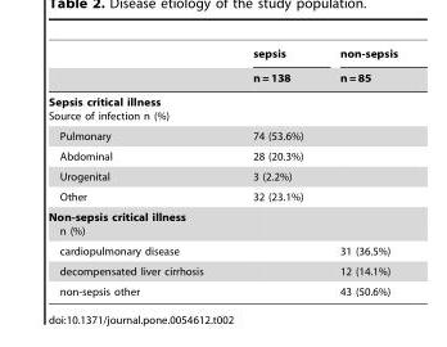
<table><thead><tr><td rowspan="2"></td><td rowspan="2">sepsis n = 138</td><td rowspan="2">non-sepsis n = 85</td></tr><tr></tr></thead><tbody><tr><td colspan="3">Sepsis critical illness Source of infection n (%)</td></tr><tr><td>Pulmonary</td><td>74 (53.6%)</td><td></td></tr><tr><td>Abdominal</td><td>28 (20.3%)</td><td></td></tr><tr><td>Urogenital</td><td>3 (2.2%)</td><td></td></tr><tr><td>Other</td><td>32 (23.1%)</td><td></td></tr><tr><td colspan="3">Non-sepsis critical illness n (%)</td></tr><tr><td>cardiopulmonary disease</td><td></td><td>31 (36.5%)</td></tr><tr><td>decompensated liver cirrhosis</td><td></td><td>12 (14.1%)</td></tr><tr><td>non-sepsis other</td><td></td><td>43 (50.6%)</td></tr></tbody></table>